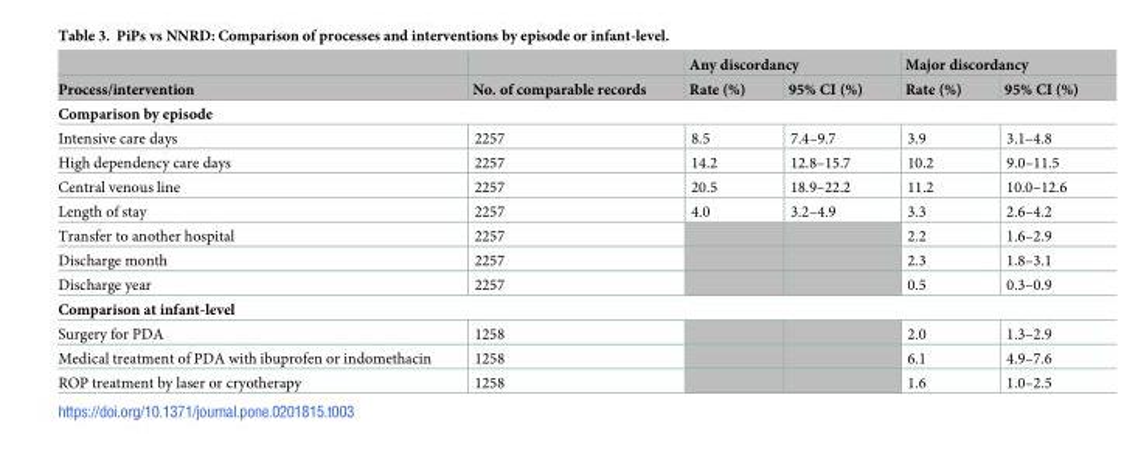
<table><thead><tr><td rowspan="2">Process/intervention</td><td rowspan="2">No. of comparable records</td><td colspan="2">Any discordancy</td><td colspan="2">Major discordancy</td></tr><tr><td>Rate (%)</td><td>95% CI (%)</td><td>Rate (%)</td><td>95% CI (%)</td></tr></thead><tbody><tr><td colspan="6">Comparison by episode</td></tr><tr><td>Intensive care days</td><td>2257</td><td>8.5</td><td>7.4–9.7</td><td>3.9</td><td>3.1–4.8</td></tr><tr><td>High dependency care days</td><td>2257</td><td>14.2</td><td>12.8–15.7</td><td>10.2</td><td>9.0–11.5</td></tr><tr><td>Central venous line</td><td>2257</td><td>20.5</td><td>18.9–22.2</td><td>11.2</td><td>10.0–12.6</td></tr><tr><td>Length of stay</td><td>2257</td><td>4.0</td><td>3.2–4.9</td><td>3.3</td><td>2.6–4.2</td></tr><tr><td>Transfer to another hospital</td><td>2257</td><td></td><td></td><td>2.2</td><td>1.6–2.9</td></tr><tr><td>Discharge month</td><td>2257</td><td></td><td></td><td>2.3</td><td>1.8–3.1</td></tr><tr><td>Discharge year</td><td>2257</td><td></td><td></td><td>0.5</td><td>0.3–0.9</td></tr><tr><td colspan="6">Comparison at infant-level</td></tr><tr><td>Surgery for PDA</td><td>1258</td><td></td><td></td><td>2.0</td><td>1.3–2.9</td></tr><tr><td>Medical treatment of PDA with ibuprofen or indomethacin</td><td>1258</td><td></td><td></td><td>6.1</td><td>4.9–7.6</td></tr><tr><td>ROP treatment by laser or cryotherapy</td><td>1258</td><td></td><td></td><td>1.6</td><td>1.0–2.5</td></tr></tbody></table>